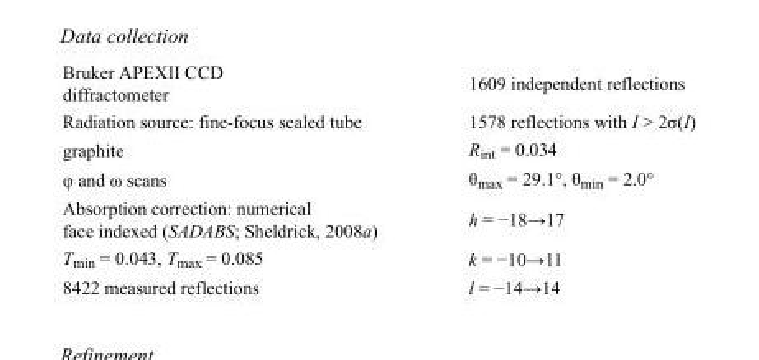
<table><tbody><tr><td>Bruker APEXII CCD diffractometer</td><td>1609 independent reflections</td></tr><tr><td>Radiation source: fine-focus sealed tube</td><td>1578 reflections with I &gt; 2σ(I)</td></tr><tr><td>graphite</td><td>R<sub>int</sub> = 0.034</td></tr><tr><td>φ and ω scans</td><td>θ<sub>max</sub> = 29.1°, θ<sub>min</sub> = 2.0°</td></tr><tr><td>Absorption correction: numerical face indexed (SADABS; Sheldrick, 2008a)</td><td>h = −18→17</td></tr><tr><td>T<sub>min</sub> = 0.043, T<sub>max</sub> = 0.085</td><td>k = −10→11</td></tr><tr><td>8422 measured reflections</td><td>l = −14→14</td></tr></tbody></table>